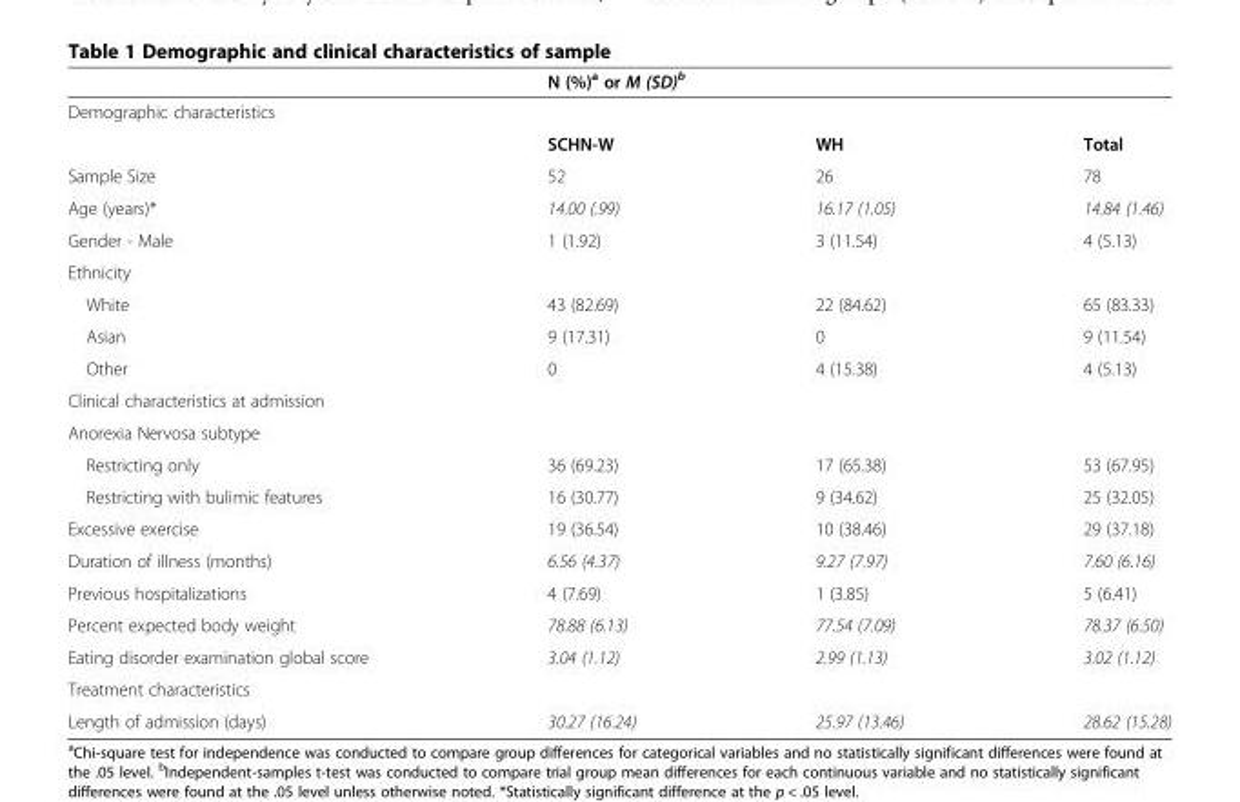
<table><thead><tr><td></td><td colspan="3">N (%)<sup>a</sup> or M (SD)<sup>b</sup></td></tr><tr><td colspan="4">Demographic characteristics</td></tr><tr><td></td><td>SCHN-W</td><td>WH</td><td>Total</td></tr></thead><tbody><tr><td>Sample Size</td><td>52</td><td>26</td><td>78</td></tr><tr><td>Age (years)*</td><td>14.00 (.99)</td><td>16.17 (1.05)</td><td>14.84 (1.46)</td></tr><tr><td>Gender - Male</td><td>1 (1.92)</td><td>3 (11.54)</td><td>4 (5.13)</td></tr><tr><td colspan="4">Ethnicity</td></tr><tr><td>White</td><td>43 (82.69)</td><td>22 (84.62)</td><td>65 (83.33)</td></tr><tr><td>Asian</td><td>9 (17.31)</td><td>0</td><td>9 (11.54)</td></tr><tr><td>Other</td><td>0</td><td>4 (15.38)</td><td>4 (5.13)</td></tr><tr><td colspan="4">Clinical characteristics at admission</td></tr><tr><td colspan="4">Anorexia Nervosa subtype</td></tr><tr><td>Restricting only</td><td>36 (69.23)</td><td>17 (65.38)</td><td>53 (67.95)</td></tr><tr><td>Restricting with bulimic features</td><td>16 (30.77)</td><td>9 (34.62)</td><td>25 (32.05)</td></tr><tr><td>Excessive exercise</td><td>19 (36.54)</td><td>10 (38.46)</td><td>29 (37.18)</td></tr><tr><td>Duration of illness (months)</td><td>6.56 (4.37)</td><td>9.27 (7.97)</td><td>7.60 (6.16)</td></tr><tr><td>Previous hospitalizations</td><td>4 (7.69)</td><td>1 (3.85)</td><td>5 (6.41)</td></tr><tr><td>Percent expected body weight</td><td>78.88 (6.13)</td><td>77.54 (7.09)</td><td>78.37 (6.50)</td></tr><tr><td>Eating disorder examination global score</td><td>3.04 (1.12)</td><td>2.99 (1.13)</td><td>3.02 (1.12)</td></tr><tr><td colspan="4">Treatment characteristics</td></tr><tr><td>Length of admission (days)</td><td>30.27 (16.24)</td><td>25.97 (13.46)</td><td>28.62 (15.28)</td></tr></tbody></table>